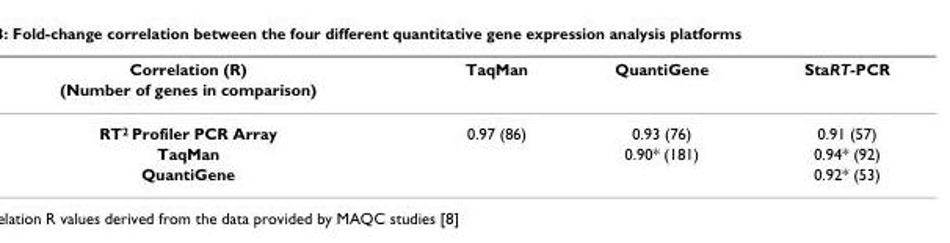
<table><thead><tr><td rowspan="2">Correlation (R) (Number of genes in comparison)</td><td rowspan="2">TaqMan</td><td rowspan="2">QuantiGene</td><td rowspan="2">StaRT-PCR</td></tr><tr></tr></thead><tbody><tr><td>RT<sup>2</sup> Profiler PCR Array</td><td>0.97 (86)</td><td>0.93 (76)</td><td>0.91 (57)</td></tr><tr><td>TaqMan</td><td></td><td>0.90* (181)</td><td>0.94* (92)</td></tr><tr><td>QuantiGene</td><td></td><td></td><td>0.92* (53)</td></tr></tbody></table>